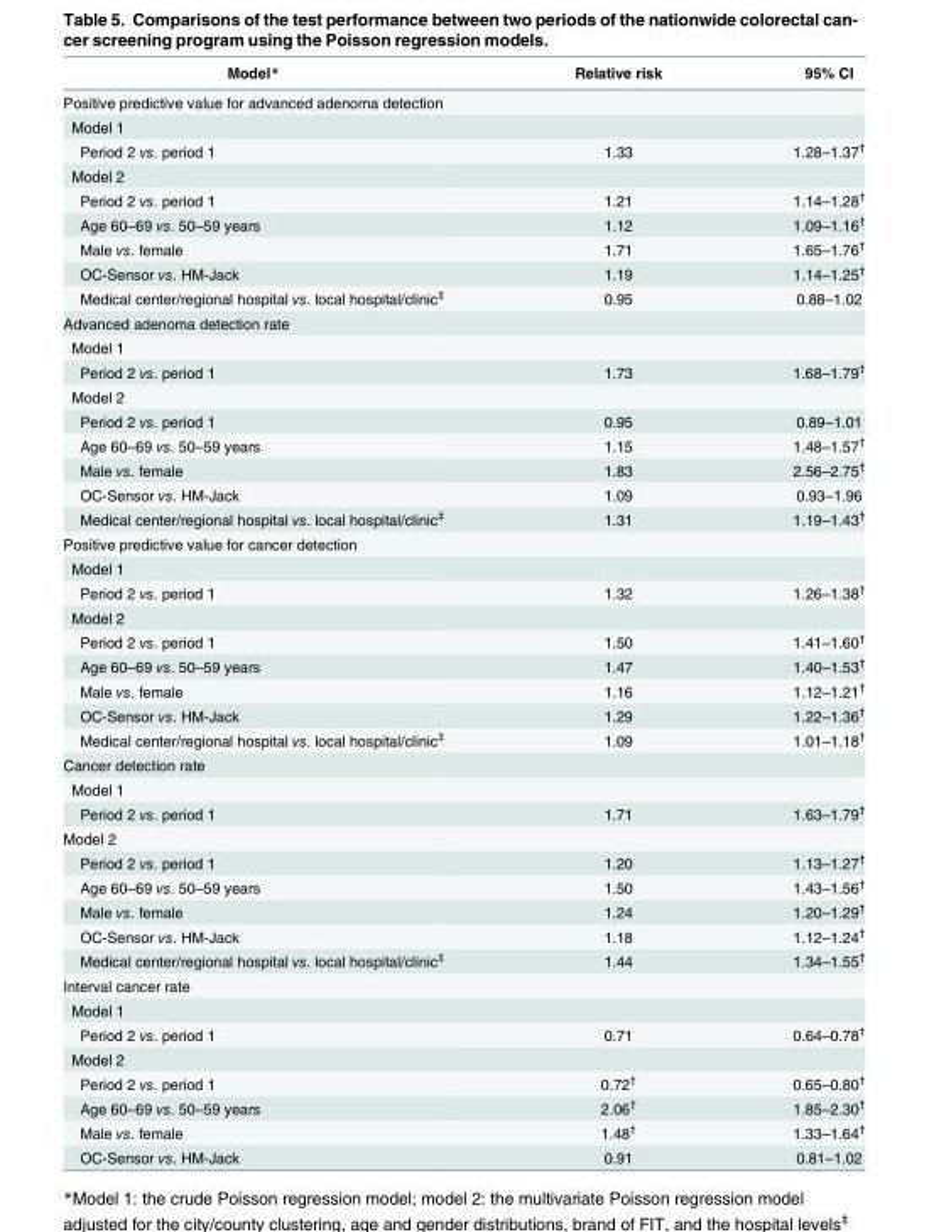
<table><thead><tr><td>Model*</td><td>Relative risk</td><td>95% CI</td></tr></thead><tbody><tr><td colspan="3">Positive predictive value for advanced adenoma detection</td></tr><tr><td colspan="3">Model 1</td></tr><tr><td>Period 2 vs. period 1</td><td>1.33</td><td>1.28–1.37<sup>†</sup></td></tr><tr><td colspan="3">Model 2</td></tr><tr><td>Period 2 vs. period 1</td><td>1.21</td><td>1.14–1.28<sup>†</sup></td></tr><tr><td>Age 60–69 vs. 50–59 years</td><td>1.12</td><td>1.09–1.16<sup>†</sup></td></tr><tr><td>Male vs. female</td><td>1.71</td><td>1.65–1.76<sup>†</sup></td></tr><tr><td>OC-Sensor vs. HM-Jack</td><td>1.19</td><td>1.14–1.25<sup>†</sup></td></tr><tr><td>Medical center/regional hospital vs. local hospital/clinic<sup>‡</sup></td><td>0.95</td><td>0.88–1.02</td></tr><tr><td colspan="3">Advanced adenoma detection rate</td></tr><tr><td colspan="3">Model 1</td></tr><tr><td>Period 2 vs. period 1</td><td>1.73</td><td>1.68–1.79<sup>†</sup></td></tr><tr><td colspan="3">Model 2</td></tr><tr><td>Period 2 vs. period 1</td><td>0.95</td><td>0.89–1.01</td></tr><tr><td>Age 60–69 vs. 50–59 years</td><td>1.15</td><td>1.48–1.57<sup>†</sup></td></tr><tr><td>Male vs. female</td><td>1.83</td><td>2.56–2.75<sup>†</sup></td></tr><tr><td>OC-Sensor vs. HM-Jack</td><td>1.09</td><td>0.93–1.96</td></tr><tr><td>Medical center/regional hospital vs. local hospital/clinic<sup>‡</sup></td><td>1.31</td><td>1.19–1.43<sup>†</sup></td></tr><tr><td colspan="3">Positive predictive value for cancer detection</td></tr><tr><td colspan="3">Model 1</td></tr><tr><td>Period 2 vs. period 1</td><td>1.32</td><td>1.26–1.38<sup>†</sup></td></tr><tr><td colspan="3">Model 2</td></tr><tr><td>Period 2 vs. period 1</td><td>1.50</td><td>1.41–1.60<sup>†</sup></td></tr><tr><td>Age 60–69 vs. 50–59 years</td><td>1.47</td><td>1.40–1.53<sup>†</sup></td></tr><tr><td>Male vs. female</td><td>1.16</td><td>1.12–1.21<sup>†</sup></td></tr><tr><td>OC-Sensor vs. HM-Jack</td><td>1.29</td><td>1.22–1.36<sup>†</sup></td></tr><tr><td>Medical center/regional hospital vs. local hospital/clinic<sup>‡</sup></td><td>1.09</td><td>1.01–1.18<sup>†</sup></td></tr><tr><td colspan="3">Cancer detection rate</td></tr><tr><td colspan="3">Model 1</td></tr><tr><td>Period 2 vs. period 1</td><td>1.71</td><td>1.63–1.79<sup>†</sup></td></tr><tr><td colspan="3">Model 2</td></tr><tr><td>Period 2 vs. period 1</td><td>1.20</td><td>1.13–1.27<sup>†</sup></td></tr><tr><td>Age 60–69 vs. 50–59 years</td><td>1.50</td><td>1.43–1.56<sup>†</sup></td></tr><tr><td>Male vs. female</td><td>1.24</td><td>1.20–1.29<sup>†</sup></td></tr><tr><td>OC-Sensor vs. HM-Jack</td><td>1.18</td><td>1.12–1.24<sup>†</sup></td></tr><tr><td>Medical center/regional hospital vs. local hospital/clinic<sup>‡</sup></td><td>1.44</td><td>1.34–1.55<sup>†</sup></td></tr><tr><td colspan="3">Interval cancer rate</td></tr><tr><td colspan="3">Model 1</td></tr><tr><td>Period 2 vs. period 1</td><td>0.71</td><td>0.64–0.78<sup>†</sup></td></tr><tr><td colspan="3">Model 2</td></tr><tr><td>Period 2 vs. period 1</td><td>0.72<sup>†</sup></td><td>0.65–0.80<sup>†</sup></td></tr><tr><td>Age 60–69 vs. 50–59 years</td><td>2.06<sup>†</sup></td><td>1.85–2.30<sup>†</sup></td></tr><tr><td>Male vs. female</td><td>1.48<sup>†</sup></td><td>1.33–1.64<sup>†</sup></td></tr><tr><td>OC-Sensor vs. HM-Jack</td><td>0.91</td><td>0.81–1.02</td></tr></tbody></table>